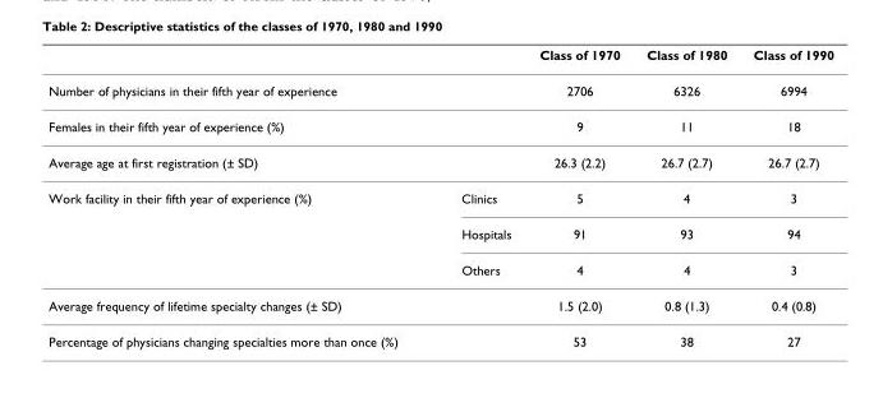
<table><thead><tr><td></td><td></td><td>Class of 1970</td><td>Class of 1980</td><td>Class of 1990</td></tr></thead><tbody><tr><td>Number of physicians in their fifth year of experience</td><td></td><td>2706</td><td>6326</td><td>6994</td></tr><tr><td>Females in their fifth year of experience (%)</td><td></td><td>9</td><td>11</td><td>18</td></tr><tr><td>Average age at first registration (± SD)</td><td></td><td>26.3 (2.2)</td><td>26.7 (2.7)</td><td>26.7 (2.7)</td></tr><tr><td rowspan="3">Work facility in their fifth year of experience (%)</td><td>Clinics</td><td>5</td><td>4</td><td>3</td></tr><tr><td>Hospitals</td><td>91</td><td>93</td><td>94</td></tr><tr><td>Others</td><td>4</td><td>4</td><td>3</td></tr><tr><td>Average frequency of lifetime specialty changes (± SD)</td><td></td><td>1.5 (2.0)</td><td>0.8 (1.3)</td><td>0.4 (0.8)</td></tr><tr><td>Percentage of physicians changing specialties more than once (%)</td><td></td><td>53</td><td>38</td><td>27</td></tr></tbody></table>